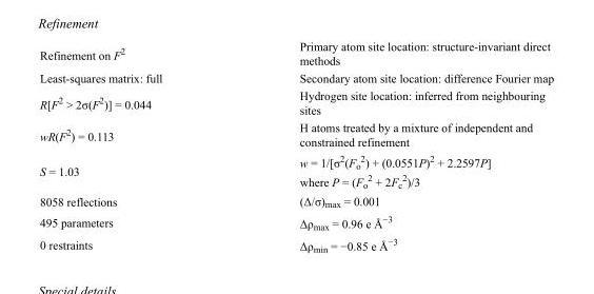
<table><tbody><tr><td>Refinement on F<sup>2</sup></td><td>Primary atom site location: structure-invariant direct methods</td></tr><tr><td>Least-squares matrix: full</td><td>Secondary atom site location: difference Fourier map</td></tr><tr><td>R[F<sup>2</sup> &gt; 2σ(F<sup>2</sup>)] = 0.044</td><td>Hydrogen site location: inferred from neighbouring sites</td></tr><tr><td>wR(F<sup>2</sup>) = 0.113</td><td>H atoms treated by a mixture of independent and constrained refinement</td></tr><tr><td>S = 1.03</td><td>w = 1/[σ<sup>2</sup>(F<sub>o</sub> <sup>2</sup>) + (0.0551P)<sup>2</sup> + 2.2597P] where P = (F<sub>o</sub> <sup>2</sup> + 2F<sub>c</sub> <sup>2</sup>)/3</td></tr><tr><td>8058 reflections</td><td>(Δ/σ)<sub>max</sub> = 0.001</td></tr><tr><td>495 parameters</td><td>Δρ<sub>max</sub> = 0.96 e Å<sup>−3</sup></td></tr><tr><td>0 restraints</td><td>Δρ<sub>min</sub> = −0.85 e Å<sup>−3</sup></td></tr></tbody></table>